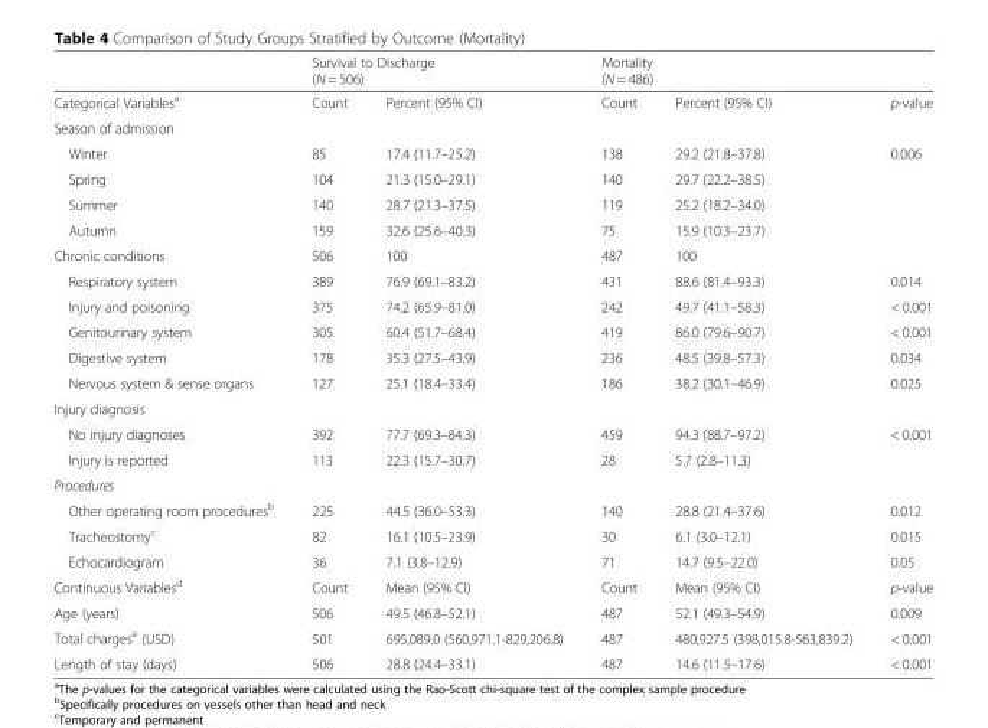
<table><thead><tr><td rowspan="2">Categorical Variables<sup>a</sup></td><td colspan="2">Survival to Discharge (N = 506)</td><td colspan="2">Mortality (N = 486)</td><td rowspan="2">p-value</td></tr><tr><td>Count</td><td>Percent (95% CI)</td><td>Count</td><td>Percent (95% CI)</td></tr></thead><tbody><tr><td colspan="6">Season of admission</td></tr><tr><td>Winter</td><td>85</td><td>17.4 (11.7–25.2)</td><td>138</td><td>29.2 (21.8–37.8)</td><td>0.006</td></tr><tr><td>Spring</td><td>104</td><td>21.3 (15.0–29.1)</td><td>140</td><td>29.7 (22.2–38.5)</td><td></td></tr><tr><td>Summer</td><td>140</td><td>28.7 (21.3–37.5)</td><td>119</td><td>25.2 (18.2–34.0)</td><td></td></tr><tr><td>Autumn</td><td>159</td><td>32.6 (25.6–40.3)</td><td>75</td><td>15.9 (10.3–23.7)</td><td></td></tr><tr><td>Chronic conditions</td><td>506</td><td>100</td><td>487</td><td>100</td><td></td></tr><tr><td>Respiratory system</td><td>389</td><td>76.9 (69.1–83.2)</td><td>431</td><td>88.6 (81.4–93.3)</td><td>0.014</td></tr><tr><td>Injury and poisoning</td><td>375</td><td>74.2 (65.9–81.0)</td><td>242</td><td>49.7 (41.1–58.3)</td><td>&lt; 0.001</td></tr><tr><td>Genitourinary system</td><td>305</td><td>60.4 (51.7–68.4)</td><td>419</td><td>86.0 (79.6–90.7)</td><td>&lt; 0.001</td></tr><tr><td>Digestive system</td><td>178</td><td>35.3 (27.5–43.9)</td><td>236</td><td>48.5 (39.8–57.3)</td><td>0.034</td></tr><tr><td>Nervous system &amp; sense organs</td><td>127</td><td>25.1 (18.4–33.4)</td><td>186</td><td>38.2 (30.1–46.9)</td><td>0.025</td></tr><tr><td colspan="6">Injury diagnosis</td></tr><tr><td>No injury diagnoses</td><td>392</td><td>77.7 (69.3–84.3)</td><td>459</td><td>94.3 (88.7–97.2)</td><td>&lt; 0.001</td></tr><tr><td>Injury is reported</td><td>113</td><td>22.3 (15.7–30.7)</td><td>28</td><td>5.7 (2.8–11.3)</td><td></td></tr><tr><td colspan="6">Procedures</td></tr><tr><td>Other operating room procedures<sup>b</sup></td><td>225</td><td>44.5 (36.0–53.3)</td><td>140</td><td>28.8 (21.4–37.6)</td><td>0.012</td></tr><tr><td>Tracheostomy<sup>c</sup></td><td>82</td><td>16.1 (10.5–23.9)</td><td>30</td><td>6.1 (3.0–12.1)</td><td>0.015</td></tr><tr><td>Echocardiogram</td><td>36</td><td>7.1 (3.8–12.9)</td><td>71</td><td>14.7 (9.5–22.0)</td><td>0.05</td></tr><tr><td>Continuous Variables<sup>d</sup></td><td>Count</td><td>Mean (95% CI)</td><td>Count</td><td>Mean (95% CI)</td><td>p-value</td></tr><tr><td>Age (years)</td><td>506</td><td>49.5 (46.8–52.1)</td><td>487</td><td>52.1 (49.3–54.9)</td><td>0.009</td></tr><tr><td>Total charges<sup>e</sup> (USD)</td><td>501</td><td>695,089.0 (560,971.1-829,206.8)</td><td>487</td><td>480,927.5 (398,015.8-563,839.2)</td><td>&lt; 0.001</td></tr><tr><td>Length of stay (days)</td><td>506</td><td>28.8 (24.4–33.1)</td><td>487</td><td>14.6 (11.5–17.6)</td><td>&lt; 0.001</td></tr></tbody></table>